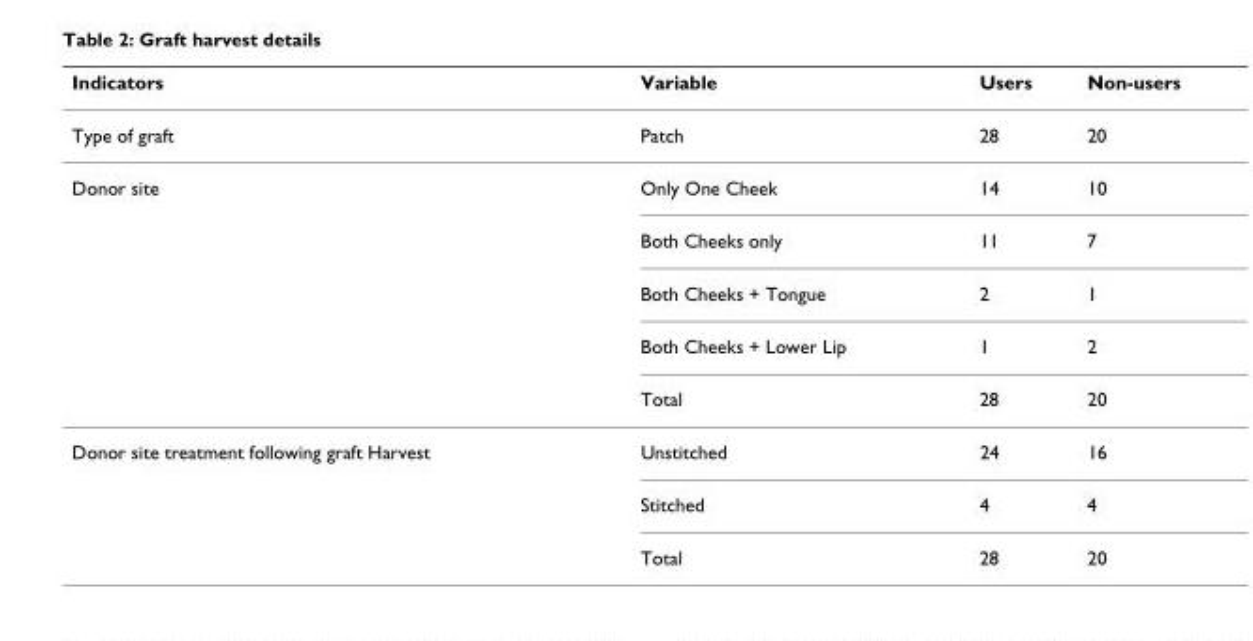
<table><thead><tr><td>Indicators</td><td>Variable</td><td>Users</td><td>Non-users</td></tr></thead><tbody><tr><td>Type of graft</td><td>Patch</td><td>28</td><td>20</td></tr><tr><td rowspan="5">Donor site</td><td>Only One Cheek</td><td>14</td><td>10</td></tr><tr><td>Both Cheeks only</td><td>11</td><td>7</td></tr><tr><td>Both Cheeks + Tongue</td><td>2</td><td>1</td></tr><tr><td>Both Cheeks + Lower Lip</td><td>1</td><td>2</td></tr><tr><td>Total</td><td>28</td><td>20</td></tr><tr><td rowspan="3">Donor site treatment following graft Harvest</td><td>Unstitched</td><td>24</td><td>16</td></tr><tr><td>Stitched</td><td>4</td><td>4</td></tr><tr><td>Total</td><td>28</td><td>20</td></tr></tbody></table>